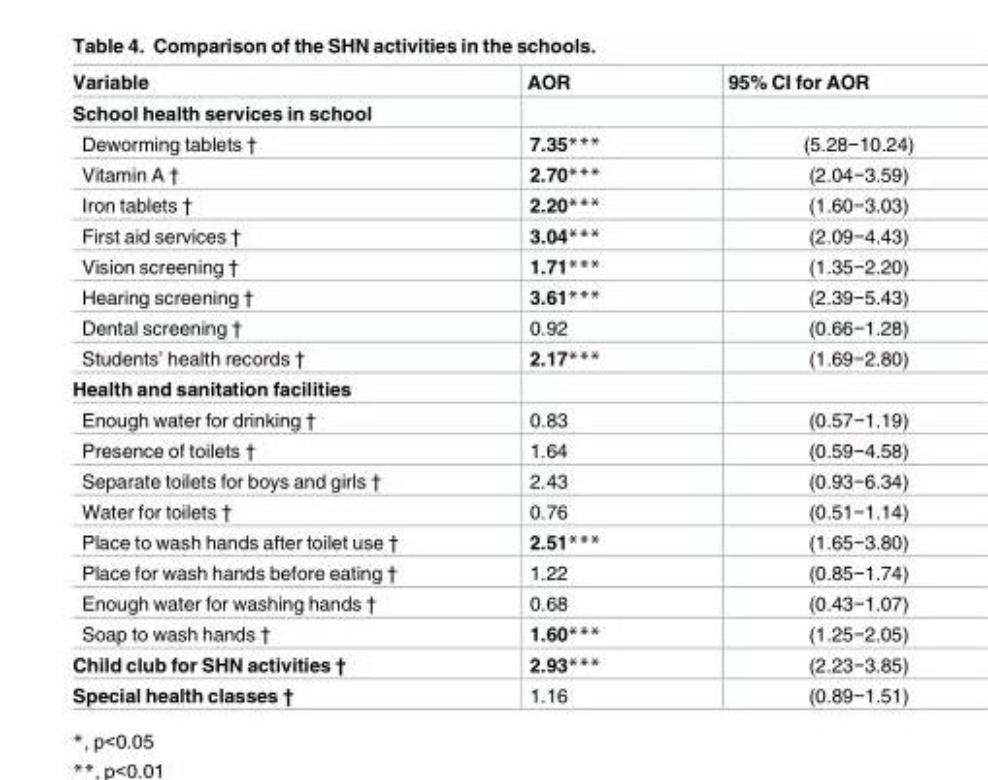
<table><thead><tr><td>Variable</td><td>AOR</td><td>95% CI for AOR</td></tr></thead><tbody><tr><td colspan="3">School health services in school</td></tr><tr><td>Deworming tablets †</td><td>7.35***</td><td>(5.28−10.24)</td></tr><tr><td>Vitamin A †</td><td>2.70***</td><td>(2.04−3.59)</td></tr><tr><td>Iron tablets †</td><td>2.20***</td><td>(1.60−3.03)</td></tr><tr><td>First aid services †</td><td>3.04***</td><td>(2.09−4.43)</td></tr><tr><td>Vision screening †</td><td>1.71***</td><td>(1.35−2.20)</td></tr><tr><td>Hearing screening †</td><td>3.61***</td><td>(2.39−5.43)</td></tr><tr><td>Dental screening †</td><td>0.92</td><td>(0.66−1.28)</td></tr><tr><td>Students’ health records †</td><td>2.17***</td><td>(1.69−2.80)</td></tr><tr><td colspan="3">Health and sanitation facilities</td></tr><tr><td>Enough water for drinking †</td><td>0.83</td><td>(0.57−1.19)</td></tr><tr><td>Presence of toilets †</td><td>1.64</td><td>(0.59−4.58)</td></tr><tr><td>Separate toilets for boys and girls †</td><td>2.43</td><td>(0.93−6.34)</td></tr><tr><td>Water for toilets †</td><td>0.76</td><td>(0.51−1.14)</td></tr><tr><td>Place to wash hands after toilet use †</td><td>2.51***</td><td>(1.65−3.80)</td></tr><tr><td>Place for wash hands before eating †</td><td>1.22</td><td>(0.85−1.74)</td></tr><tr><td>Enough water for washing hands †</td><td>0.68</td><td>(0.43−1.07)</td></tr><tr><td>Soap to wash hands †</td><td>1.60***</td><td>(1.25−2.05)</td></tr><tr><td>Child club for SHN activities †</td><td>2.93***</td><td>(2.23−3.85)</td></tr><tr><td>Special health classes †</td><td>1.16</td><td>(0.89−1.51)</td></tr></tbody></table>